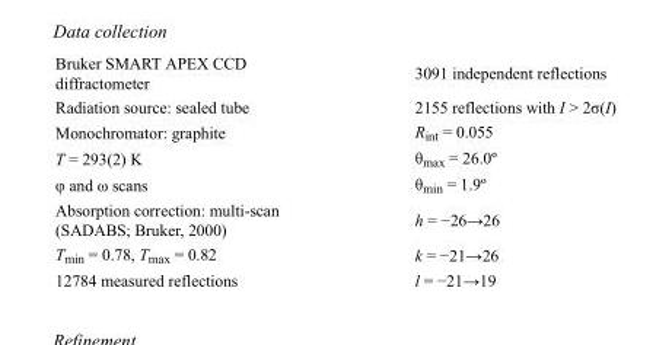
<table><tbody><tr><td>Bruker SMART APEX CCD diffractometer</td><td>3091 independent reflections</td></tr><tr><td>Radiation source: sealed tube</td><td>2155 reflections with I &gt; 2σ(I)</td></tr><tr><td>Monochromator: graphite</td><td>R<sub>int</sub> = 0.055</td></tr><tr><td>T = 293(2) K</td><td>θ<sub>max</sub> = 26.0º</td></tr><tr><td>φ and ω scans</td><td>θ<sub>min</sub> = 1.9º</td></tr><tr><td>Absorption correction: multi-scan (SADABS; Bruker, 2000)</td><td>h = −26→26</td></tr><tr><td>T<sub>min</sub> = 0.78, T<sub>max</sub> = 0.82</td><td>k = −21→26</td></tr><tr><td>12784 measured reflections</td><td>l = −21→19</td></tr></tbody></table>